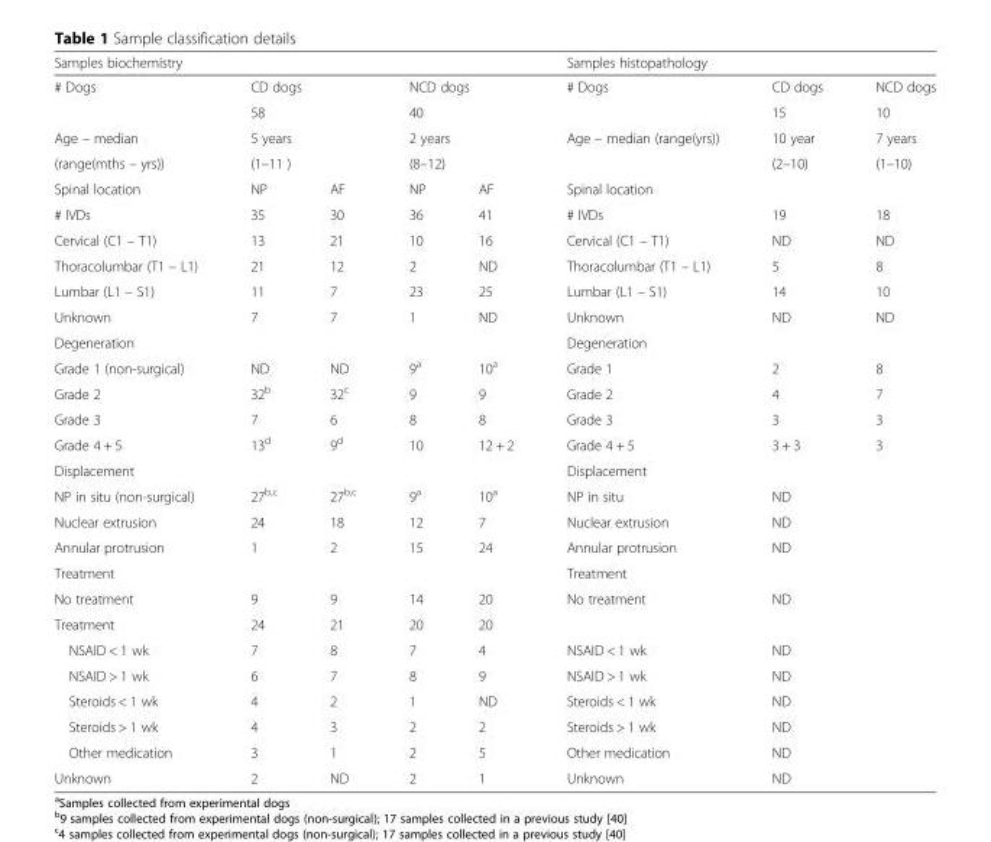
<table><thead><tr><td colspan="5">Samples biochemistry</td><td colspan="3">Samples histopathology</td></tr></thead><tbody><tr><td rowspan="2"># Dogs</td><td colspan="2">CD dogs</td><td colspan="2">NCD dogs</td><td rowspan="2"># Dogs</td><td>CD dogs</td><td>NCD dogs</td></tr><tr><td colspan="2">58</td><td colspan="2">40</td><td>15</td><td>10</td></tr><tr><td>Age – median</td><td colspan="2">5 years</td><td colspan="2">2 years</td><td rowspan="2">Age – median (range(yrs))</td><td>10 year</td><td>7 years</td></tr><tr><td>(range(mths – yrs))</td><td colspan="2">(1–11 )</td><td colspan="2">(8–12)</td><td>(2–10)</td><td>(1–10)</td></tr><tr><td>Spinal location</td><td>NP</td><td>AF</td><td>NP</td><td>AF</td><td colspan="3">Spinal location</td></tr><tr><td># IVDs</td><td>35</td><td>30</td><td>36</td><td>41</td><td># IVDs</td><td>19</td><td>18</td></tr><tr><td>Cervical (C1 – T1)</td><td>13</td><td>21</td><td>10</td><td>16</td><td>Cervical (C1 – T1)</td><td>ND</td><td>ND</td></tr><tr><td>Thoracolumbar (T1 – L1)</td><td>21</td><td>12</td><td>2</td><td>ND</td><td>Thoracolumbar (T1 – L1)</td><td>5</td><td>8</td></tr><tr><td>Lumbar (L1 – S1)</td><td>11</td><td>7</td><td>23</td><td>25</td><td>Lumbar (L1 – S1)</td><td>14</td><td>10</td></tr><tr><td>Unknown</td><td>7</td><td>7</td><td>1</td><td>ND</td><td>Unknown</td><td>ND</td><td>ND</td></tr><tr><td colspan="5">Degeneration</td><td colspan="3">Degeneration</td></tr><tr><td>Grade 1 (non-surgical)</td><td>ND</td><td>ND</td><td>9<sup>a</sup></td><td>10<sup>a</sup></td><td>Grade 1</td><td>2</td><td>8</td></tr><tr><td>Grade 2</td><td>32<sup>b</sup></td><td>32<sup>c</sup></td><td>9</td><td>9</td><td>Grade 2</td><td>4</td><td>7</td></tr><tr><td>Grade 3</td><td>7</td><td>6</td><td>8</td><td>8</td><td>Grade 3</td><td>3</td><td>3</td></tr><tr><td>Grade 4 + 5</td><td>13<sup>d</sup></td><td>9<sup>d</sup></td><td>10</td><td>12 + 2</td><td>Grade 4 + 5</td><td>3 + 3</td><td>3</td></tr><tr><td colspan="5">Displacement</td><td colspan="3">Displacement</td></tr><tr><td>NP in situ (non-surgical)</td><td>27<sup>b,c</sup></td><td>27<sup>b,c</sup></td><td>9<sup>a</sup></td><td>10<sup>a</sup></td><td>NP in situ</td><td colspan="2">ND</td></tr><tr><td>Nuclear extrusion</td><td>24</td><td>18</td><td>12</td><td>7</td><td>Nuclear extrusion</td><td colspan="2">ND</td></tr><tr><td>Annular protrusion</td><td>1</td><td>2</td><td>15</td><td>24</td><td>Annular protrusion</td><td colspan="2">ND</td></tr><tr><td colspan="5">Treatment</td><td colspan="3">Treatment</td></tr><tr><td>No treatment</td><td>9</td><td>9</td><td>14</td><td>20</td><td>No treatment</td><td colspan="2">ND</td></tr><tr><td>Treatment</td><td>24</td><td>21</td><td>20</td><td>20</td><td></td><td colspan="2"></td></tr><tr><td>NSAID &lt; 1 wk</td><td>7</td><td>8</td><td>7</td><td>4</td><td>NSAID &lt; 1 wk</td><td colspan="2">ND</td></tr><tr><td>NSAID &gt; 1 wk</td><td>6</td><td>7</td><td>8</td><td>9</td><td>NSAID &gt; 1 wk</td><td colspan="2">ND</td></tr><tr><td>Steroids &lt; 1 wk</td><td>4</td><td>2</td><td>1</td><td>ND</td><td>Steroids &lt; 1 wk</td><td colspan="2">ND</td></tr><tr><td>Steroids &gt; 1 wk</td><td>4</td><td>3</td><td>2</td><td>2</td><td>Steroids &gt; 1 wk</td><td colspan="2">ND</td></tr><tr><td>Other medication</td><td>3</td><td>1</td><td>2</td><td>5</td><td>Other medication</td><td colspan="2">ND</td></tr><tr><td>Unknown</td><td>2</td><td>ND</td><td>2</td><td>1</td><td>Unknown</td><td colspan="2">ND</td></tr></tbody></table>